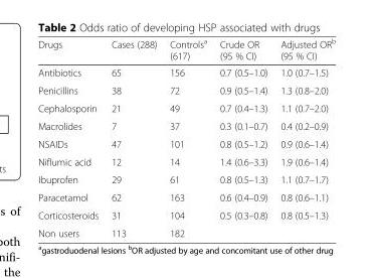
<table><thead><tr><td>Drugs</td><td>Cases (288)</td><td>Controls<sup>a</sup> (617)</td><td>Crude OR (95 % CI)</td><td>Adjusted OR<sup>b</sup> (95 % CI)</td></tr></thead><tbody><tr><td>Antibiotics</td><td>65</td><td>156</td><td>0.7 (0.5–1.0)</td><td>1.0 (0.7–1.5)</td></tr><tr><td>Penicillins</td><td>38</td><td>72</td><td>0.9 (0.5–1.4)</td><td>1.3 (0.8–2.0)</td></tr><tr><td>Cephalosporin</td><td>21</td><td>49</td><td>0.7 (0.4–1.3)</td><td>1.1 (0.7–2.0)</td></tr><tr><td>Macrolides</td><td>7</td><td>37</td><td>0.3 (0.1–0.7)</td><td>0.4 (0.2–0.9)</td></tr><tr><td>NSAIDs</td><td>47</td><td>101</td><td>0.8 (0.5–1.2)</td><td>0.9 (0.6–1.4)</td></tr><tr><td>Niflumic acid</td><td>12</td><td>14</td><td>1.4 (0.6–3.3)</td><td>1.9 (0.6–1.4)</td></tr><tr><td>Ibuprofen</td><td>29</td><td>61</td><td>0.8 (0.5–1.3)</td><td>1.1 (0.7–1.7)</td></tr><tr><td>Paracetamol</td><td>62</td><td>163</td><td>0.6 (0.4–0.9)</td><td>0.8 (0.6–1.1)</td></tr><tr><td>Corticosteroids</td><td>31</td><td>104</td><td>0.5 (0.3–0.8)</td><td>0.8 (0.5–1.3)</td></tr><tr><td>Non users</td><td>113</td><td>182</td><td></td><td></td></tr></tbody></table>